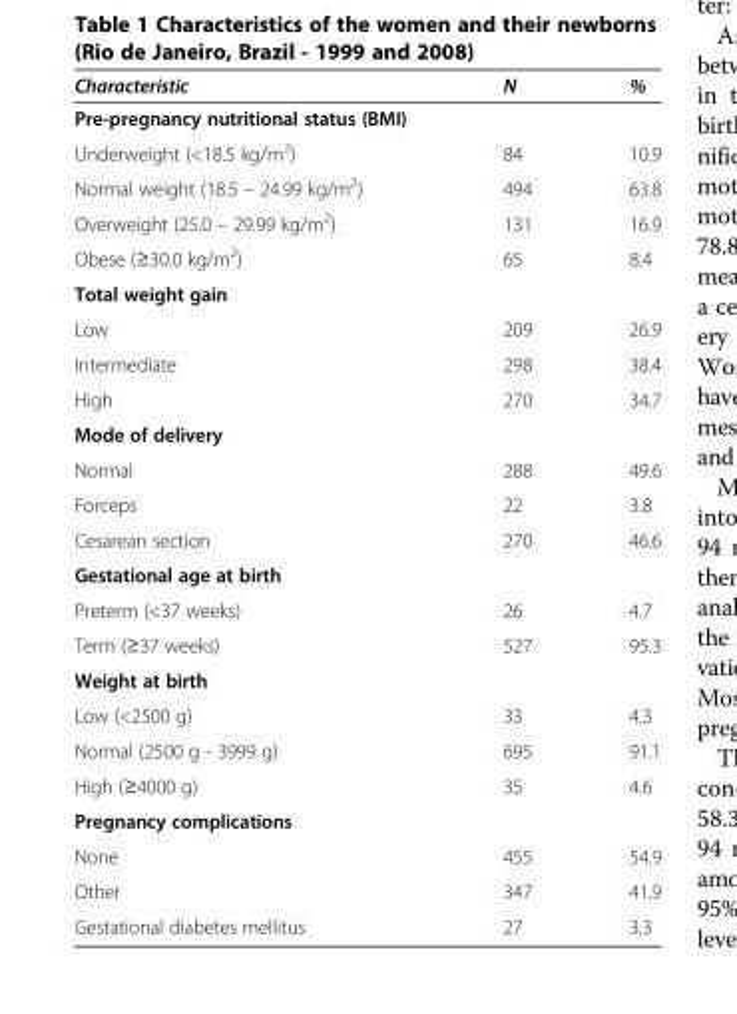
<table><thead><tr><td>Characteristic</td><td>N</td><td>%</td></tr></thead><tbody><tr><td colspan="3">Pre-pregnancy nutritional status (BMI)</td></tr><tr><td>Underweight (&lt;18.5 kg/m<sup>2</sup>)</td><td>84</td><td>10.9</td></tr><tr><td>Normal weight (18.5 – 24.99 kg/m<sup>2</sup>)</td><td>494</td><td>63.8</td></tr><tr><td>Overweight (25.0 – 29.99 kg/m<sup>2</sup>)</td><td>131</td><td>16.9</td></tr><tr><td>Obese (≥30.0 kg/m<sup>2</sup>)</td><td>65</td><td>8.4</td></tr><tr><td colspan="3">Total weight gain</td></tr><tr><td>Low</td><td>209</td><td>26.9</td></tr><tr><td>Intermediate</td><td>298</td><td>38.4</td></tr><tr><td>High</td><td>270</td><td>34.7</td></tr><tr><td colspan="3">Mode of delivery</td></tr><tr><td>Normal</td><td>288</td><td>49.6</td></tr><tr><td>Forceps</td><td>22</td><td>3.8</td></tr><tr><td>Cesarean section</td><td>270</td><td>46.6</td></tr><tr><td colspan="3">Gestational age at birth</td></tr><tr><td>Preterm (&lt;37 weeks)</td><td>26</td><td>4.7</td></tr><tr><td>Term (≥37 weeks)</td><td>527</td><td>95.3</td></tr><tr><td colspan="3">Weight at birth</td></tr><tr><td>Low (&lt;2500 g)</td><td>33</td><td>4.3</td></tr><tr><td>Normal (2500 g - 3999 g)</td><td>695</td><td>91.1</td></tr><tr><td>High (≥4000 g)</td><td>35</td><td>4.6</td></tr><tr><td colspan="3">Pregnancy complications</td></tr><tr><td>None</td><td>455</td><td>54.9</td></tr><tr><td>Other</td><td>347</td><td>41.9</td></tr><tr><td>Gestational diabetes mellitus</td><td>27</td><td>3.3</td></tr></tbody></table>